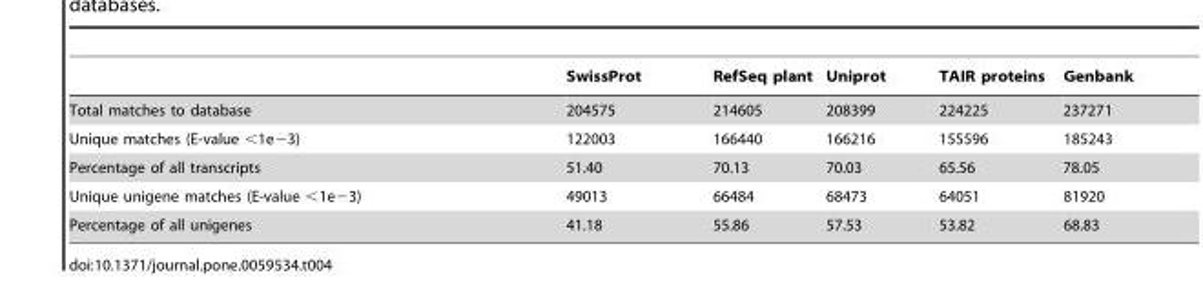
<table><thead><tr><td></td><td>SwissProt</td><td>RefSeq plant</td><td>Uniprot</td><td>TAIR proteins</td><td>Genbank</td></tr></thead><tbody><tr><td>Total matches to database</td><td>204575</td><td>214605</td><td>208399</td><td>224225</td><td>237271</td></tr><tr><td>Unique matches (E-value &lt;1e−3)</td><td>122003</td><td>166440</td><td>166216</td><td>155596</td><td>185243</td></tr><tr><td>Percentage of all transcripts</td><td>51.40</td><td>70.13</td><td>70.03</td><td>65.56</td><td>78.05</td></tr><tr><td>Unique unigene matches (E-value &lt;1e−3)</td><td>49013</td><td>66484</td><td>68473</td><td>64051</td><td>81920</td></tr><tr><td>Percentage of all unigenes</td><td>41.18</td><td>55.86</td><td>57.53</td><td>53.82</td><td>68.83</td></tr></tbody></table>